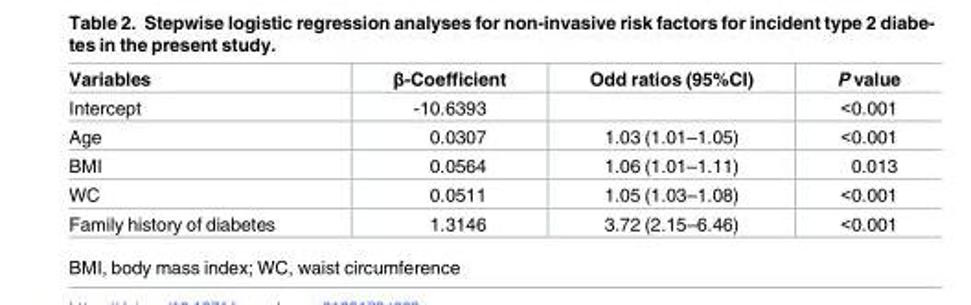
<table><thead><tr><td>Variables</td><td>β-Coefficient</td><td>Odd ratios (95%CI)</td><td>P value</td></tr></thead><tbody><tr><td>Intercept</td><td>-10.6393</td><td></td><td>&lt;0.001</td></tr><tr><td>Age</td><td>0.0307</td><td>1.03 (1.01–1.05)</td><td>&lt;0.001</td></tr><tr><td>BMI</td><td>0.0564</td><td>1.06 (1.01–1.11)</td><td>0.013</td></tr><tr><td>WC</td><td>0.0511</td><td>1.05 (1.03–1.08)</td><td>&lt;0.001</td></tr><tr><td>Family history of diabetes</td><td>1.3146</td><td>3.72 (2.15–6.46)</td><td>&lt;0.001</td></tr></tbody></table>